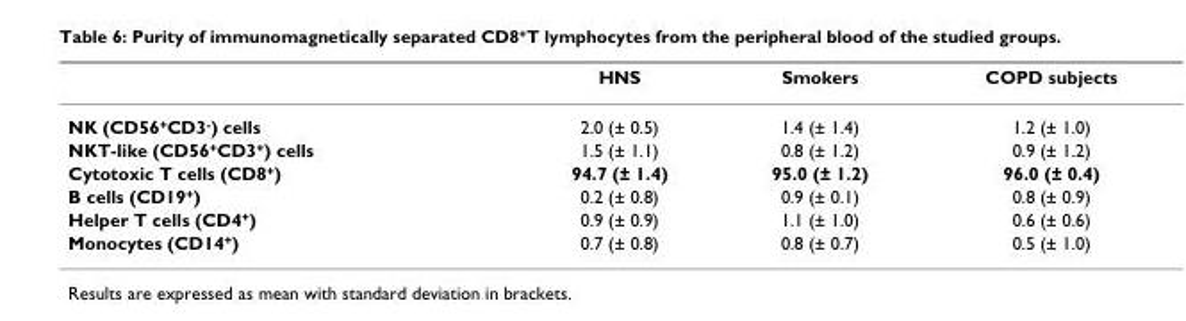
<table><thead><tr><td></td><td>HNS</td><td>Smokers</td><td>COPD subjects</td></tr></thead><tbody><tr><td>NK (CD56<sup>+</sup>CD3<sup>-</sup>) cells</td><td>2.0 (± 0.5)</td><td>1.4 (± 1.4)</td><td>1.2 (± 1.0)</td></tr><tr><td>NKT-like (CD56<sup>+</sup>CD3<sup>+</sup>) cells</td><td>1.5 (± 1.1)</td><td>0.8 (± 1.2)</td><td>0.9 (± 1.2)</td></tr><tr><td>Cytotoxic T cells (CD8<sup>+</sup>)</td><td>94.7 (± 1.4)</td><td>95.0 (± 1.2)</td><td>96.0 (± 0.4)</td></tr><tr><td>B cells (CD19<sup>+</sup>)</td><td>0.2 (± 0.8)</td><td>0.9 (± 0.1)</td><td>0.8 (± 0.9)</td></tr><tr><td>Helper T cells (CD4<sup>+</sup>)</td><td>0.9 (± 0.9)</td><td>1.1 (± 1.0)</td><td>0.6 (± 0.6)</td></tr><tr><td>Monocytes (CD14<sup>+</sup>)</td><td>0.7 (± 0.8)</td><td>0.8 (± 0.7)</td><td>0.5 (± 1.0)</td></tr></tbody></table>